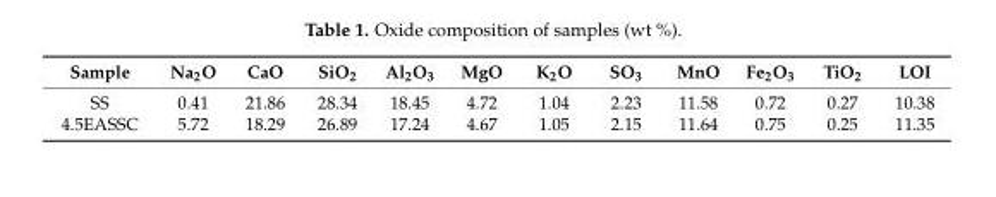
<table><thead><tr><td>Sample</td><td>Na<sub>2</sub>O</td><td>CaO</td><td>SiO<sub>2</sub></td><td>Al<sub>2</sub>O<sub>3</sub></td><td>MgO</td><td>K<sub>2</sub>O</td><td>SO<sub>3</sub></td><td>MnO</td><td>Fe<sub>2</sub>O<sub>3</sub></td><td>TiO<sub>2</sub></td><td>LOI</td></tr></thead><tbody><tr><td>SS</td><td>0.41</td><td>21.86</td><td>28.34</td><td>18.45</td><td>4.72</td><td>1.04</td><td>2.23</td><td>11.58</td><td>0.72</td><td>0.27</td><td>10.38</td></tr><tr><td>4.5EASSC</td><td>5.72</td><td>18.29</td><td>26.89</td><td>17.24</td><td>4.67</td><td>1.05</td><td>2.15</td><td>11.64</td><td>0.75</td><td>0.25</td><td>11.35</td></tr></tbody></table>